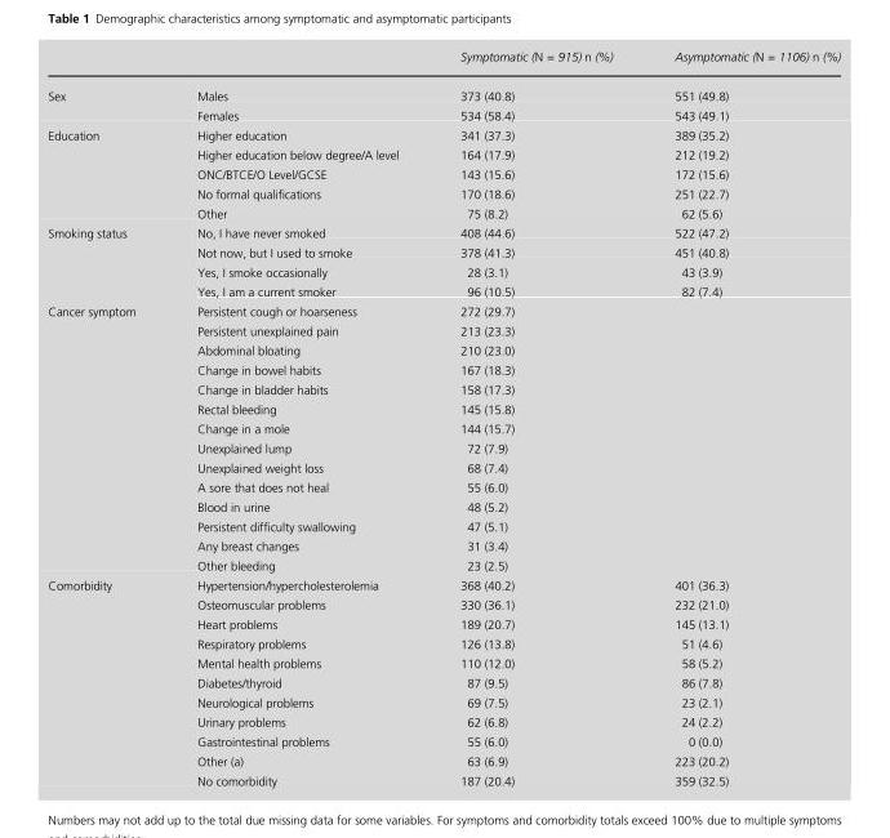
<table><thead><tr><td></td><td></td><td>Symptomatic (N = 915) n (%)</td><td>Asymptomatic (N = 1106) n (%)</td></tr></thead><tbody><tr><td rowspan="2">Sex</td><td>Males</td><td>373 (40.8)</td><td>551 (49.8)</td></tr><tr><td>Females</td><td>534 (58.4)</td><td>543 (49.1)</td></tr><tr><td rowspan="5">Education</td><td>Higher education</td><td>341 (37.3)</td><td>389 (35.2)</td></tr><tr><td>Higher education below degree/A level</td><td>164 (17.9)</td><td>212 (19.2)</td></tr><tr><td>ONC/BTCE/O Level/GCSE</td><td>143 (15.6)</td><td>172 (15.6)</td></tr><tr><td>No formal qualifications</td><td>170 (18.6)</td><td>251 (22.7)</td></tr><tr><td>Other</td><td>75 (8.2)</td><td>62 (5.6)</td></tr><tr><td rowspan="4">Smoking status</td><td>No, I have never smoked</td><td>408 (44.6)</td><td>522 (47.2)</td></tr><tr><td>Not now, but I used to smoke</td><td>378 (41.3)</td><td>451 (40.8)</td></tr><tr><td>Yes, I smoke occasionally</td><td>28 (3.1)</td><td>43 (3.9)</td></tr><tr><td>Yes, I am a current smoker</td><td>96 (10.5)</td><td>82 (7.4)</td></tr><tr><td rowspan="14">Cancer symptom</td><td>Persistent cough or hoarseness</td><td>272 (29.7)</td><td></td></tr><tr><td>Persistent unexplained pain</td><td>213 (23.3)</td><td></td></tr><tr><td>Abdominal bloating</td><td>210 (23.0)</td><td></td></tr><tr><td>Change in bowel habits</td><td>167 (18.3)</td><td></td></tr><tr><td>Change in bladder habits</td><td>158 (17.3)</td><td></td></tr><tr><td>Rectal bleeding</td><td>145 (15.8)</td><td></td></tr><tr><td>Change in a mole</td><td>144 (15.7)</td><td></td></tr><tr><td>Unexplained lump</td><td>72 (7.9)</td><td></td></tr><tr><td>Unexplained weight loss</td><td>68 (7.4)</td><td></td></tr><tr><td>A sore that does not heal</td><td>55 (6.0)</td><td></td></tr><tr><td>Blood in urine</td><td>48 (5.2)</td><td></td></tr><tr><td>Persistent difficulty swallowing</td><td>47 (5.1)</td><td></td></tr><tr><td>Any breast changes</td><td>31 (3.4)</td><td></td></tr><tr><td>Other bleeding</td><td>23 (2.5)</td><td></td></tr><tr><td rowspan="11">Comorbidity</td><td>Hypertension/hypercholesterolemia</td><td>368 (40.2)</td><td>401 (36.3)</td></tr><tr><td>Osteomuscular problems</td><td>330 (36.1)</td><td>232 (21.0)</td></tr><tr><td>Heart problems</td><td>189 (20.7)</td><td>145 (13.1)</td></tr><tr><td>Respiratory problems</td><td>126 (13.8)</td><td>51 (4.6)</td></tr><tr><td>Mental health problems</td><td>110 (12.0)</td><td>58 (5.2)</td></tr><tr><td>Diabetes/thyroid</td><td>87 (9.5)</td><td>86 (7.8)</td></tr><tr><td>Neurological problems</td><td>69 (7.5)</td><td>23 (2.1)</td></tr><tr><td>Urinary problems</td><td>62 (6.8)</td><td>24 (2.2)</td></tr><tr><td>Gastrointestinal problems</td><td>55 (6.0)</td><td>0 (0.0)</td></tr><tr><td>Other (a)</td><td>63 (6.9)</td><td>223 (20.2)</td></tr><tr><td>No comorbidity</td><td>187 (20.4)</td><td>359 (32.5)</td></tr></tbody></table>